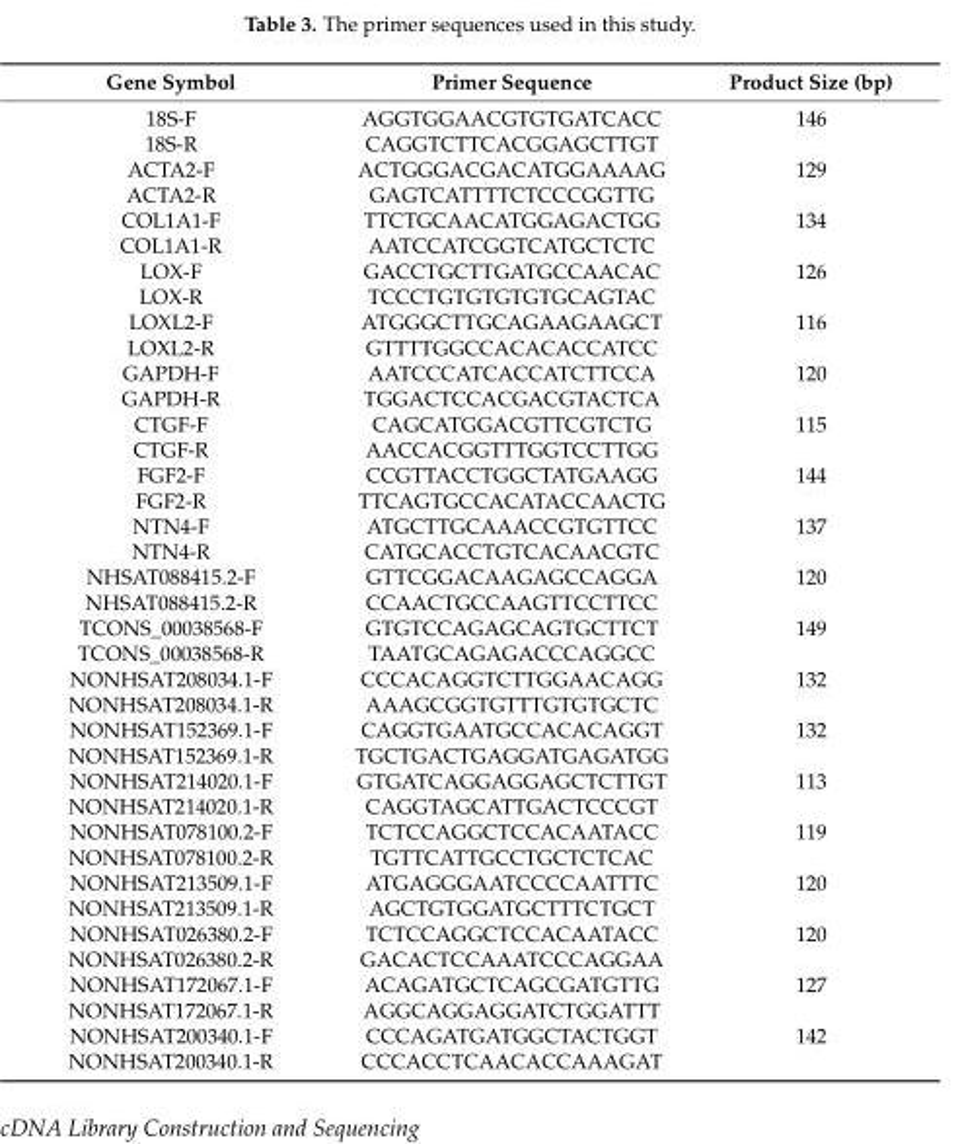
<table><thead><tr><td>Gene Symbol</td><td>Primer Sequence</td><td>Product Size (bp)</td></tr></thead><tbody><tr><td>18S-F</td><td>AGGTGGAACGTGTGATCACC</td><td>146</td></tr><tr><td>18S-R</td><td>CAGGTCTTCACGGAGCTTGT</td><td></td></tr><tr><td>ACTA2-F</td><td>ACTGGGACGACATGGAAAAG</td><td>129</td></tr><tr><td>ACTA2-R</td><td>GAGTCATTTTCTCCCGGTTG</td><td></td></tr><tr><td>COL1A1-F</td><td>TTCTGCAACATGGAGACTGG</td><td>134</td></tr><tr><td>COL1A1-R</td><td>AATCCATCGGTCATGCTCTC</td><td></td></tr><tr><td>LOX-F</td><td>GACCTGCTTGATGCCAACAC</td><td>126</td></tr><tr><td>LOX-R</td><td>TCCCTGTGTGTGTGCAGTAC</td><td></td></tr><tr><td>LOXL2-F</td><td>ATGGGCTTGCAGAAGAAGCT</td><td>116</td></tr><tr><td>LOXL2-R</td><td>GTTTTGGCCACACACCATCC</td><td></td></tr><tr><td>GAPDH-F</td><td>AATCCCATCACCATCTTCCA</td><td>120</td></tr><tr><td>GAPDH-R</td><td>TGGACTCCACGACGTACTCA</td><td></td></tr><tr><td>CTGF-F</td><td>CAGCATGGACGTTCGTCTG</td><td>115</td></tr><tr><td>CTGF-R</td><td>AACCACGGTTTGGTCCTTGG</td><td></td></tr><tr><td>FGF2-F</td><td>CCGTTACCTGGCTATGAAGG</td><td>144</td></tr><tr><td>FGF2-R</td><td>TTCAGTGCCACATACCAACTG</td><td></td></tr><tr><td>NTN4-F</td><td>ATGCTTGCAAACCGTGTTCC</td><td>137</td></tr><tr><td>NTN4-R</td><td>CATGCACCTGTCACAACGTC</td><td></td></tr><tr><td>NHSAT088415.2-F</td><td>GTTCGGACAAGAGCCAGGA</td><td>120</td></tr><tr><td>NHSAT088415.2-R</td><td>CCAACTGCCAAGTTCCTTCC</td><td></td></tr><tr><td>TCONS_00038568-F</td><td>GTGTCCAGAGCAGTGCTTCT</td><td>149</td></tr><tr><td>TCONS_00038568-R</td><td>TAATGCAGAGACCCAGGCC</td><td></td></tr><tr><td>NONHSAT208034.1-F</td><td>CCCACAGGTCTTGGAACAGG</td><td>132</td></tr><tr><td>NONHSAT208034.1-R</td><td>AAAGCGGTGTTTGTGTGCTC</td><td></td></tr><tr><td>NONHSAT152369.1-F</td><td>CAGGTGAATGCCACACAGGT</td><td>132</td></tr><tr><td>NONHSAT152369.1-R</td><td>TGCTGACTGAGGATGAGATGG</td><td></td></tr><tr><td>NONHSAT214020.1-F</td><td>GTGATCAGGAGGAGCTCTTGT</td><td>113</td></tr><tr><td>NONHSAT214020.1-R</td><td>CAGGTAGCATTGACTCCCGT</td><td></td></tr><tr><td>NONHSAT078100.2-F</td><td>TCTCCAGGCTCCACAATACC</td><td>119</td></tr><tr><td>NONHSAT078100.2-R</td><td>TGTTCATTGCCTGCTCTCAC</td><td></td></tr><tr><td>NONHSAT213509.1-F</td><td>ATGAGGGAATCCCCAATTTC</td><td>120</td></tr><tr><td>NONHSAT213509.1-R</td><td>AGCTGTGGATGCTTTCTGCT</td><td></td></tr><tr><td>NONHSAT026380.2-F</td><td>TCTCCAGGCTCCACAATACC</td><td>120</td></tr><tr><td>NONHSAT026380.2-R</td><td>GACACTCCAAATCCCAGGAA</td><td></td></tr><tr><td>NONHSAT172067.1-F</td><td>ACAGATGCTCAGCGATGTTG</td><td>127</td></tr><tr><td>NONHSAT172067.1-R</td><td>AGGCAGGAGGATCTGGATTT</td><td></td></tr><tr><td>NONHSAT200340.1-F</td><td>CCCAGATGATGGCTACTGGT</td><td>142</td></tr><tr><td>NONHSAT200340.1-R</td><td>CCCACCTCAACACCAAAGAT</td><td></td></tr></tbody></table>